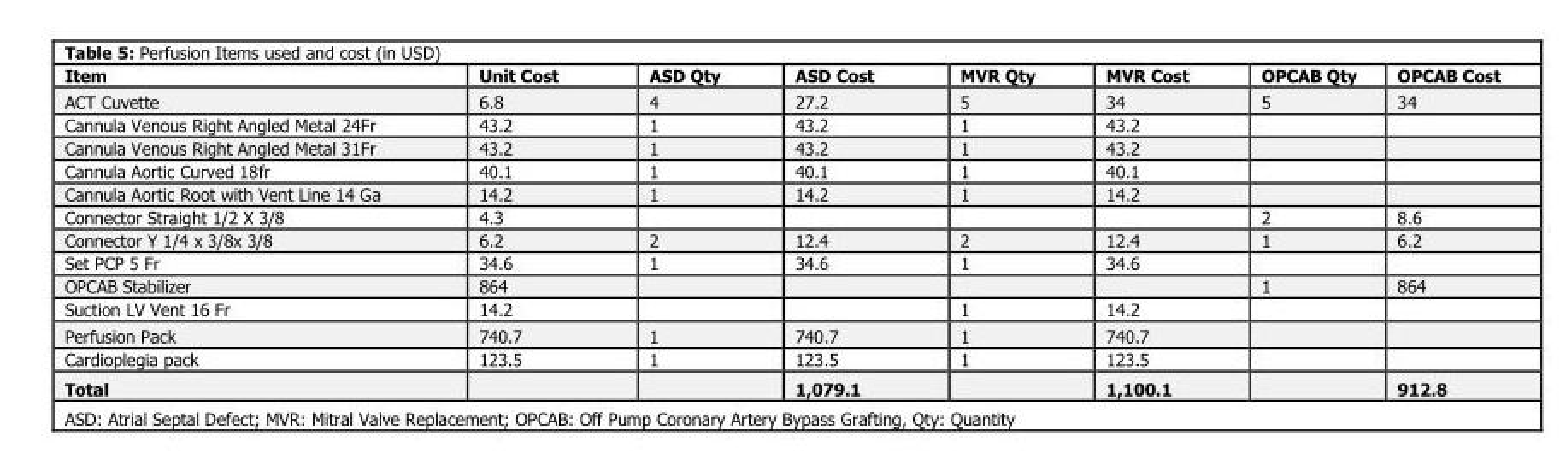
<table><thead><tr><td>Item</td><td>Unit Cost</td><td>ASD Qty</td><td>ASD Cost</td><td>MVR Qty</td><td>MVR Cost</td><td>OPCAB Qty</td><td>OPCAB Cost</td></tr></thead><tbody><tr><td>ACT Cuvette</td><td>6.8</td><td>4</td><td>27.2</td><td>5</td><td>34</td><td>5</td><td>34</td></tr><tr><td>Cannula Venous Right Angled Metal 24Fr</td><td>43.2</td><td>1</td><td>43.2</td><td>1</td><td>43.2</td><td></td><td></td></tr><tr><td>Cannula Venous Right Angled Metal 31Fr</td><td>43.2</td><td>1</td><td>43.2</td><td>1</td><td>43.2</td><td></td><td></td></tr><tr><td>Cannula Aortic Curved 18fr</td><td>40.1</td><td>1</td><td>40.1</td><td>1</td><td>40.1</td><td></td><td></td></tr><tr><td>Cannula Aortic Root with Vent Line 14 Ga</td><td>14.2</td><td>1</td><td>14.2</td><td>1</td><td>14.2</td><td></td><td></td></tr><tr><td>Connector Straight 1/2 X 3/8</td><td>4.3</td><td></td><td></td><td></td><td></td><td>2</td><td>8.6</td></tr><tr><td>Connector Y 1/4 x 3/8x 3/8</td><td>6.2</td><td>2</td><td>12.4</td><td>2</td><td>12.4</td><td>1</td><td>6.2</td></tr><tr><td>Set PCP 5 Fr</td><td>34.6</td><td>1</td><td>34.6</td><td>1</td><td>34.6</td><td></td><td></td></tr><tr><td>OPCAB Stabilizer</td><td>864</td><td></td><td></td><td></td><td></td><td>1</td><td>864</td></tr><tr><td>Suction LV Vent 16 Fr</td><td>14.2</td><td></td><td></td><td>1</td><td>14.2</td><td></td><td></td></tr><tr><td>Perfusion Pack</td><td>740.7</td><td>1</td><td>740.7</td><td>1</td><td>740.7</td><td></td><td></td></tr><tr><td>Cardioplegia pack</td><td>123.5</td><td>1</td><td>123.5</td><td>1</td><td>123.5</td><td></td><td></td></tr><tr><td>Total</td><td></td><td></td><td>1,079.1</td><td></td><td>1,100.1</td><td></td><td>912.8</td></tr></tbody></table>